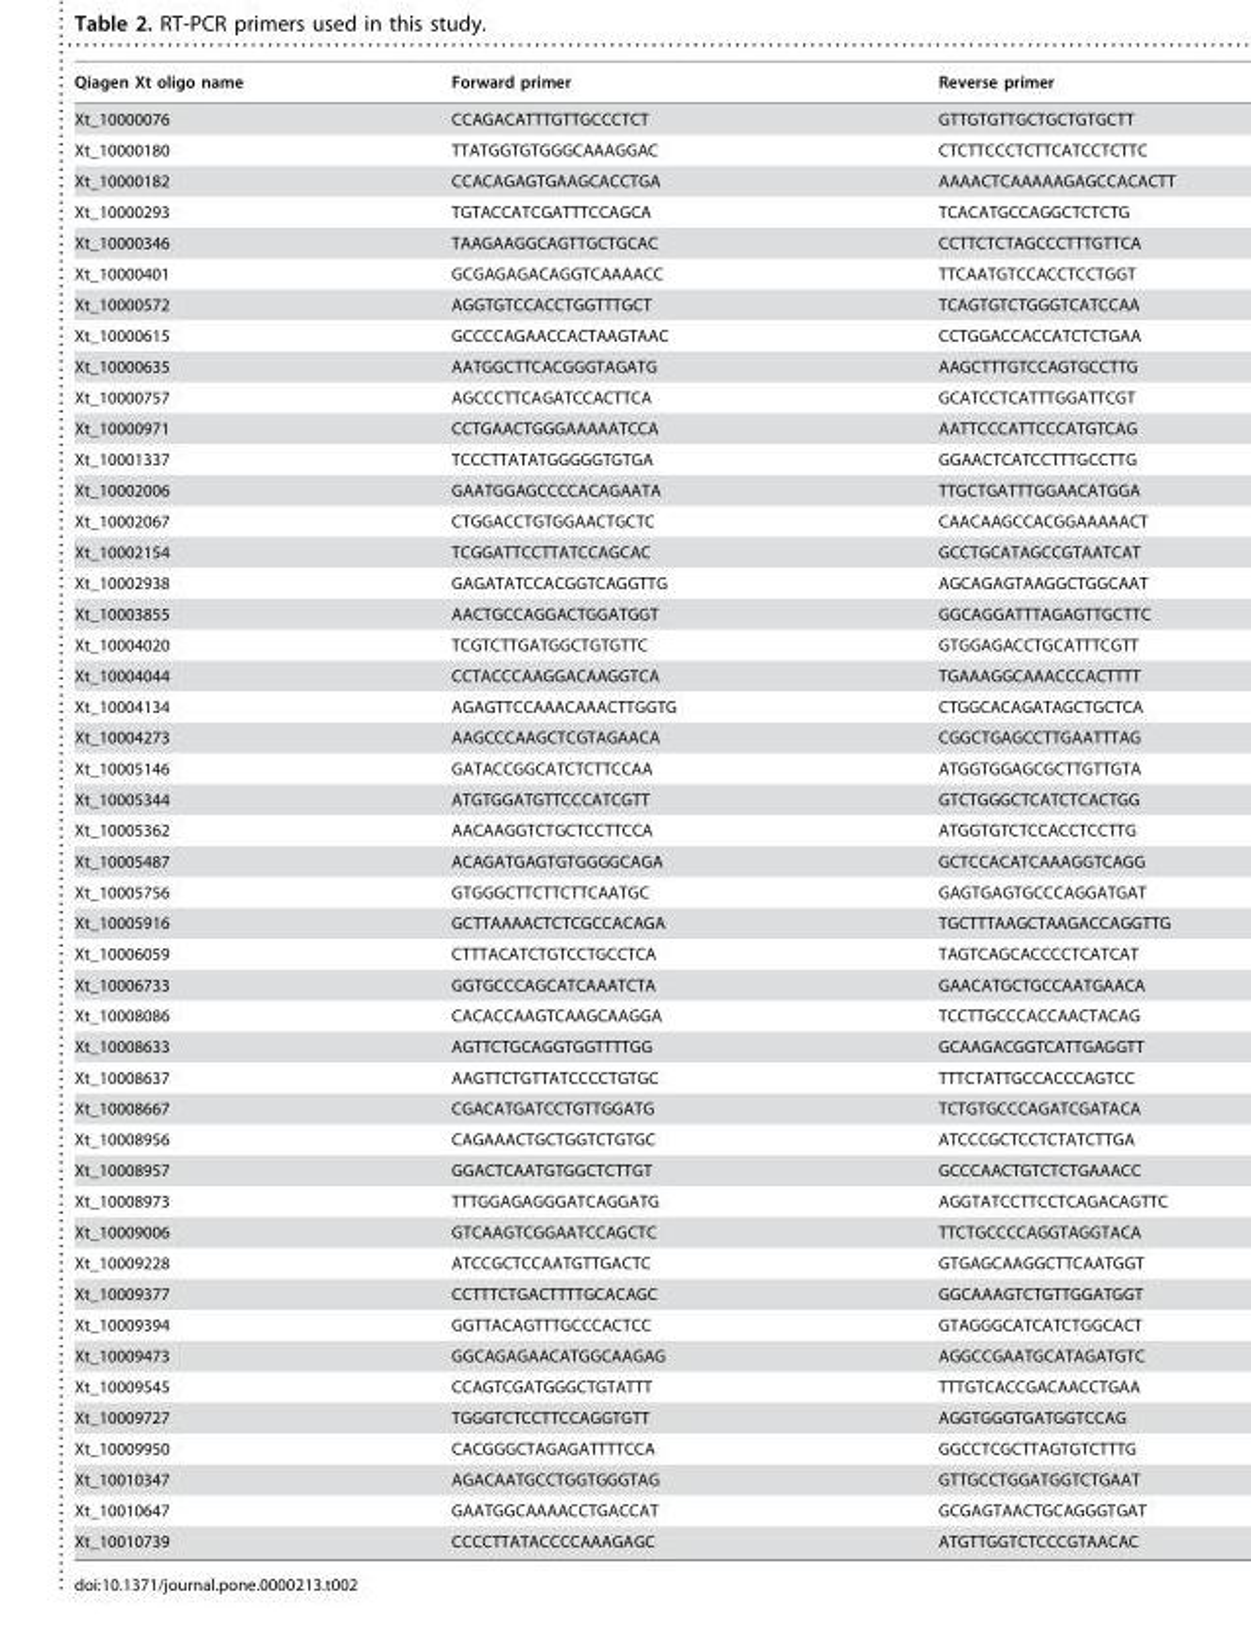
<table><thead><tr><td>Qiagen Xt oligo name</td><td>Forward primer</td><td>Reverse primer</td></tr></thead><tbody><tr><td>Xt_10000076</td><td>CCAGACATTTGTTGCCCTCT</td><td>GTTGTGTTGCTGCTGTGCTT</td></tr><tr><td>Xt_10000180</td><td>TTATGGTGTGGGCAAAGGAC</td><td>CTCTTCCCTCTTCATCCTCTTC</td></tr><tr><td>Xt_10000182</td><td>CCACAGAGTGAAGCACCTGA</td><td>AAAACTCAAAAAGAGCCACACTT</td></tr><tr><td>Xt_10000293</td><td>TGTACCATCGATTTCCAGCA</td><td>TCACATGCCAGGCTCTCTG</td></tr><tr><td>Xt_10000346</td><td>TAAGAAGGCAGTTGCTGCAC</td><td>CCTTCTCTAGCCCTTTGTTCA</td></tr><tr><td>Xt_10000401</td><td>GCGAGAGACAGGTCAAAACC</td><td>TTCAATGTCCACCTCCTGGT</td></tr><tr><td>Xt_10000572</td><td>AGGTGTCCACCTGGTTTGCT</td><td>TCAGTGTCTGGGTCATCCAA</td></tr><tr><td>Xt_10000615</td><td>GCCCCAGAACCACTAAGTAAC</td><td>CCTGGACCACCATCTCTGAA</td></tr><tr><td>Xt_10000635</td><td>AATGGCTTCACGGGTAGATG</td><td>AAGCTTTGTCCAGTGCCTTG</td></tr><tr><td>Xt_10000757</td><td>AGCCCTTCAGATCCACTTCA</td><td>GCATCCTCATTTGGATTCGT</td></tr><tr><td>Xt_10000971</td><td>CCTGAACTGGGAAAAATCCA</td><td>AATTCCCATTCCCATGTCAG</td></tr><tr><td>Xt_10001337</td><td>TCCCTTATATGGGGGTGTGA</td><td>GGAACTCATCCTTTGCCTTG</td></tr><tr><td>Xt_10002006</td><td>GAATGGAGCCCCACAGAATA</td><td>TTGCTGATTTGGAACATGGA</td></tr><tr><td>Xt_10002067</td><td>CTGGACCTGTGGAACTGCTC</td><td>CAACAAGCCACGGAAAAACT</td></tr><tr><td>Xt_10002154</td><td>TCGGATTCCTTATCCAGCAC</td><td>GCCTGCATAGCCGTAATCAT</td></tr><tr><td>Xt_10002938</td><td>GAGATATCCACGGTCAGGTTG</td><td>AGCAGAGTAAGGCTGGCAAT</td></tr><tr><td>Xt_10003855</td><td>AACTGCCAGGACTGGATGGT</td><td>GGCAGGATTTAGAGTTGCTTC</td></tr><tr><td>Xt_10004020</td><td>TCGTCTTGATGGCTGTGTTC</td><td>GTGGAGACCTGCATTTCGTT</td></tr><tr><td>Xt_10004044</td><td>CCTACCCAAGGACAAGGTCA</td><td>TGAAAGGCAAACCCACTTTT</td></tr><tr><td>Xt_10004134</td><td>AGAGTTCCAAACAAACTTGGTG</td><td>CTGGCACAGATAGCTGCTCA</td></tr><tr><td>Xt_10004273</td><td>AAGCCCAAGCTCGTAGAACA</td><td>CGGCTGAGCCTTGAATTTAG</td></tr><tr><td>Xt_10005146</td><td>GATACCGGCATCTCTTCCAA</td><td>ATGGTGGAGCGCTTGTTGTA</td></tr><tr><td>Xt_10005344</td><td>ATGTGGATGTTCCCATCGTT</td><td>GTCTGGGCTCATCTCACTGG</td></tr><tr><td>Xt_10005362</td><td>AACAAGGTCTGCTCCTTCCA</td><td>ATGGTGTCTCCACCTCCTTG</td></tr><tr><td>Xt_10005487</td><td>ACAGATGAGTGTGGGGCAGA</td><td>GCTCCACATCAAAGGTCAGG</td></tr><tr><td>Xt_10005756</td><td>GTGGGCTTCTTCTTCAATGC</td><td>GAGTGAGTGCCCAGGATGAT</td></tr><tr><td>Xt_10005916</td><td>GCTTAAAACTCTCGCCACAGA</td><td>TGCTTTAAGCTAAGACCAGGTTG</td></tr><tr><td>Xt_10006059</td><td>CTTTACATCTGTCCTGCCTCA</td><td>TAGTCAGCACCCCTCATCAT</td></tr><tr><td>Xt_10006733</td><td>GGTGCCCAGCATCAAATCTA</td><td>GAACATGCTGCCAATGAACA</td></tr><tr><td>Xt_10008086</td><td>CACACCAAGTCAAGCAAGGA</td><td>TCCTTGCCCACCAACTACAG</td></tr><tr><td>Xt_10008633</td><td>AGTTCTGCAGGTGGTTTTGG</td><td>GCAAGACGGTCATTGAGGTT</td></tr><tr><td>Xt_10008637</td><td>AAGTTCTGTTATCCCCTGTGC</td><td>TTTCTATTGCCACCCAGTCC</td></tr><tr><td>Xt_10008667</td><td>CGACATGATCCTGTTGGATG</td><td>TCTGTGCCCAGATCGATACA</td></tr><tr><td>Xt_10008956</td><td>CAGAAACTGCTGGTCTGTGC</td><td>ATCCCGCTCCTCTATCTTGA</td></tr><tr><td>Xt_10008957</td><td>GGACTCAATGTGGCTCTTGT</td><td>GCCCAACTGTCTCTGAAACC</td></tr><tr><td>Xt_10008973</td><td>TTTGGAGAGGGATCAGGATG</td><td>AGGTATCCTTCCTCAGACAGTTC</td></tr><tr><td>Xt_10009006</td><td>GTCAAGTCGGAATCCAGCTC</td><td>TTCTGCCCCAGGTAGGTACA</td></tr><tr><td>Xt_10009228</td><td>ATCCGCTCCAATGTTGACTC</td><td>GTGAGCAAGGCTTCAATGGT</td></tr><tr><td>Xt_10009377</td><td>CCTTTCTGACTTTTGCACAGC</td><td>GGCAAAGTCTGTTGGATGGT</td></tr><tr><td>Xt_10009394</td><td>GGTTACAGTTTGCCCACTCC</td><td>GTAGGGCATCATCTGGCACT</td></tr><tr><td>Xt_10009473</td><td>GGCAGAGAACATGGCAAGAG</td><td>AGGCCGAATGCATAGATGTC</td></tr><tr><td>Xt_10009545</td><td>CCAGTCGATGGGCTGTATTT</td><td>TTTGTCACCGACAACCTGAA</td></tr><tr><td>Xt_10009727</td><td>TGGGTCTCCTTCCAGGTGTT</td><td>AGGTGGGTGATGGTCCAG</td></tr><tr><td>Xt_10009950</td><td>CACGGGCTAGAGATTTTCCA</td><td>GGCCTCGCTTAGTGTCTTTG</td></tr><tr><td>Xt_10010347</td><td>AGACAATGCCTGGTGGGTAG</td><td>GTTGCCTGGATGGTCTGAAT</td></tr><tr><td>Xt_10010647</td><td>GAATGGCAAAACCTGACCAT</td><td>GCGAGTAACTGCAGGGTGAT</td></tr><tr><td>Xt_10010739</td><td>CCCCTTATACCCCAAAGAGC</td><td>ATGTTGGTCTCCCGTAACAC</td></tr></tbody></table>